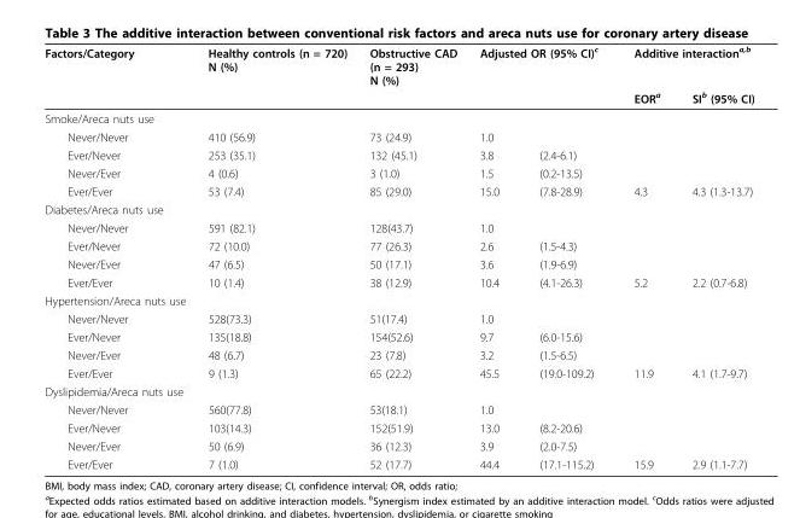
<table><thead><tr><td rowspan="2">Factors/Category</td><td rowspan="2">Healthy controls (n = 720) N (%)</td><td rowspan="2">Obstructive CAD (n = 293) N (%)</td><td colspan="2">Adjusted OR (95% CI)<sup>c</sup></td><td colspan="2">Additive interaction<sup>a,b</sup></td></tr><tr><td></td><td></td><td>EOR<sup>a</sup></td><td>SI<sup>b</sup> (95% CI)</td></tr></thead><tbody><tr><td colspan="7">Smoke/Areca nuts use</td></tr><tr><td>Never/Never</td><td>410 (56.9)</td><td>73 (24.9)</td><td>1.0</td><td></td><td></td><td></td></tr><tr><td>Ever/Never</td><td>253 (35.1)</td><td>132 (45.1)</td><td>3.8</td><td>(2.4-6.1)</td><td></td><td></td></tr><tr><td>Never/Ever</td><td>4 (0.6)</td><td>3 (1.0)</td><td>1.5</td><td>(0.2-13.5)</td><td></td><td></td></tr><tr><td>Ever/Ever</td><td>53 (7.4)</td><td>85 (29.0)</td><td>15.0</td><td>(7.8-28.9)</td><td>4.3</td><td>4.3 (1.3-13.7)</td></tr><tr><td colspan="7">Diabetes/Areca nuts use</td></tr><tr><td>Never/Never</td><td>591 (82.1)</td><td>128(43.7)</td><td>1.0</td><td></td><td></td><td></td></tr><tr><td>Ever/Never</td><td>72 (10.0)</td><td>77 (26.3)</td><td>2.6</td><td>(1.5-4.3)</td><td></td><td></td></tr><tr><td>Never/Ever</td><td>47 (6.5)</td><td>50 (17.1)</td><td>3.6</td><td>(1.9-6.9)</td><td></td><td></td></tr><tr><td>Ever/Ever</td><td>10 (1.4)</td><td>38 (12.9)</td><td>10.4</td><td>(4.1-26.3)</td><td>5.2</td><td>2.2 (0.7-6.8)</td></tr><tr><td colspan="7">Hypertension/Areca nuts use</td></tr><tr><td>Never/Never</td><td>528(73.3)</td><td>51(17.4)</td><td>1.0</td><td></td><td></td><td></td></tr><tr><td>Ever/Never</td><td>135(18.8)</td><td>154(52.6)</td><td>9.7</td><td>(6.0-15.6)</td><td></td><td></td></tr><tr><td>Never/Ever</td><td>48 (6.7)</td><td>23 (7.8)</td><td>3.2</td><td>(1.5-6.5)</td><td></td><td></td></tr><tr><td>Ever/Ever</td><td>9 (1.3)</td><td>65 (22.2)</td><td>45.5</td><td>(19.0-109.2)</td><td>11.9</td><td>4.1 (1.7-9.7)</td></tr><tr><td colspan="7">Dyslipidemia/Areca nuts use</td></tr><tr><td>Never/Never</td><td>560(77.8)</td><td>53(18.1)</td><td>1.0</td><td></td><td></td><td></td></tr><tr><td>Ever/Never</td><td>103(14.3)</td><td>152(51.9)</td><td>13.0</td><td>(8.2-20.6)</td><td></td><td></td></tr><tr><td>Never/Ever</td><td>50 (6.9)</td><td>36 (12.3)</td><td>3.9</td><td>(2.0-7.5)</td><td></td><td></td></tr><tr><td>Ever/Ever</td><td>7 (1.0)</td><td>52 (17.7)</td><td>44.4</td><td>(17.1-115.2)</td><td>15.9</td><td>2.9 (1.1-7.7)</td></tr></tbody></table>